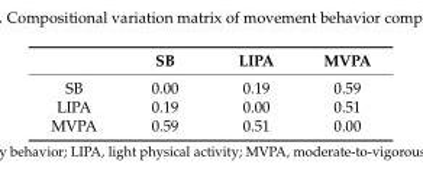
<table><thead><tr><td></td><td>SB</td><td>LIPA</td><td>MVPA</td></tr></thead><tbody><tr><td>SB</td><td>0.00</td><td>0.19</td><td>0.59</td></tr><tr><td>LIPA</td><td>0.19</td><td>0.00</td><td>0.51</td></tr><tr><td>MVPA</td><td>0.59</td><td>0.51</td><td>0.00</td></tr></tbody></table>